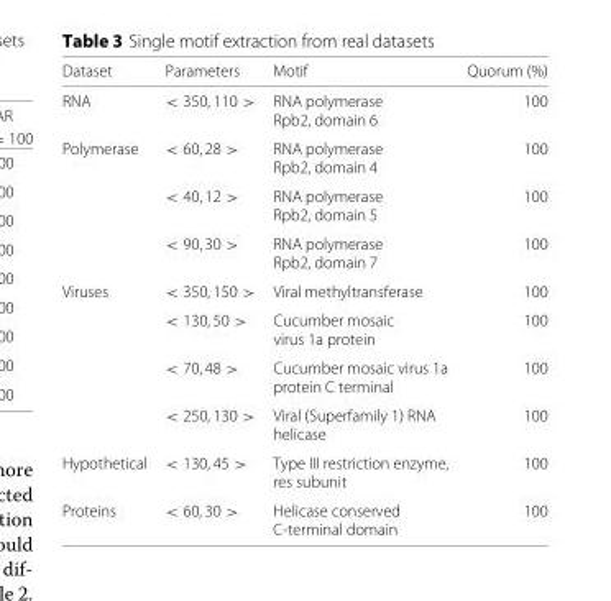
<table><thead><tr><td>Dataset</td><td>Parameters</td><td>Motif</td><td>Quorum (%)</td></tr></thead><tbody><tr><td rowspan="2">RNA</td><td>&lt; 350, 110 &gt;</td><td>RNA polymerase</td><td>100</td></tr><tr><td></td><td>Rpb2, domain 6</td><td></td></tr><tr><td rowspan="6">Polymerase</td><td>&lt; 60, 28 &gt;</td><td>RNA polymerase</td><td>100</td></tr><tr><td></td><td>Rpb2, domain 4</td><td></td></tr><tr><td>&lt; 40, 12 &gt;</td><td>RNA polymerase</td><td>100</td></tr><tr><td></td><td>Rpb2, domain 5</td><td></td></tr><tr><td>&lt; 90, 30 &gt;</td><td>RNA polymerase</td><td>100</td></tr><tr><td></td><td>Rpb2, domain 7</td><td></td></tr><tr><td rowspan="7">Viruses</td><td>&lt; 350, 150 &gt;</td><td>Viral methyltransferase</td><td>100</td></tr><tr><td>&lt; 130, 50 &gt;</td><td>Cucumber mosaic</td><td>100</td></tr><tr><td></td><td>virus 1a protein</td><td></td></tr><tr><td>&lt; 70, 48 &gt;</td><td>Cucumber mosaic virus 1a</td><td>100</td></tr><tr><td></td><td>protein C terminal</td><td></td></tr><tr><td>&lt; 250, 130 &gt;</td><td>Viral (Superfamily 1) RNA</td><td>100</td></tr><tr><td></td><td>helicase</td><td></td></tr><tr><td rowspan="2">Hypothetical</td><td>&lt; 130, 45 &gt;</td><td>Type III restriction enzyme,</td><td>100</td></tr><tr><td></td><td>res subunit</td><td></td></tr><tr><td rowspan="2">Proteins</td><td>&lt; 60, 30 &gt;</td><td>Helicase conserved</td><td>100</td></tr><tr><td></td><td>C-terminal domain</td><td></td></tr></tbody></table>